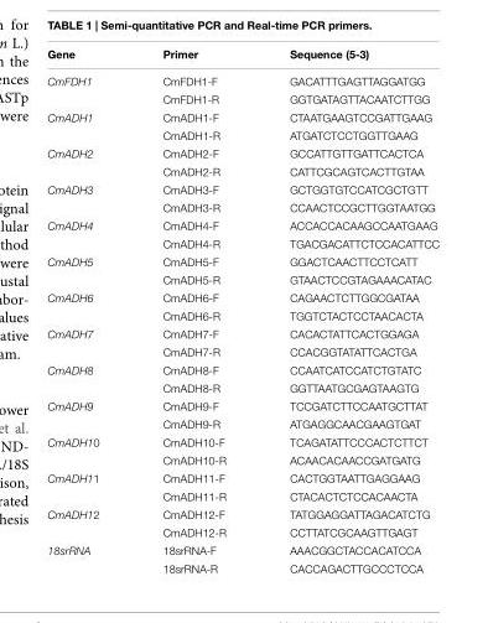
<table><thead><tr><td>Gene</td><td>Primer</td><td>Sequence (5-3)</td></tr></thead><tbody><tr><td rowspan="2">CmFDH1</td><td>CmFDH1-F</td><td>GACATTTGAGTTAGGATGG</td></tr><tr><td>CmFDH1-R</td><td>GGTGATAGTTACAATCTTGG</td></tr><tr><td rowspan="2">CmADH1</td><td>CmADH1-F</td><td>CTAATGAAGTCCGATTGAAG</td></tr><tr><td>CmADH1-R</td><td>ATGATCTCCTGGTTGAAG</td></tr><tr><td rowspan="2">CmADH2</td><td>CmADH2-F</td><td>GCCATTGTTGATTCACTCA</td></tr><tr><td>CmADH2-R</td><td>CATTCGCAGTCACTTGTAA</td></tr><tr><td rowspan="2">CmADH3</td><td>CmADH3-F</td><td>GCTGGTGTCCATCGCTGTT</td></tr><tr><td>CmADH3-R</td><td>CCAACTCCGCTTGGTAATGG</td></tr><tr><td rowspan="2">CmADH4</td><td>CmADH4-F</td><td>ACCACCACAAGCCAATGAAG</td></tr><tr><td>CmADH4-R</td><td>TGACGACATTCTCCACATTCC</td></tr><tr><td rowspan="2">CmADH5</td><td>CmADH5-F</td><td>GGACTCAACTTCCTCATT</td></tr><tr><td>CmADH5-R</td><td>GTAACTCCGTAGAAACATAC</td></tr><tr><td rowspan="2">CmADH6</td><td>CmADH6-F</td><td>CAGAACTCTTGGCGATAA</td></tr><tr><td>CmADH6-R</td><td>TGGTCTACTCCTAACACTA</td></tr><tr><td rowspan="2">CmADH7</td><td>CmADH7-F</td><td>CACACTATTCACTGGAGA</td></tr><tr><td>CmADH7-R</td><td>CCACGGTATATTCACTGA</td></tr><tr><td rowspan="2">CmADH8</td><td>CmADH8-F</td><td>CCAATCATCCATCTGTATC</td></tr><tr><td>CmADH8-R</td><td>GGTTAATGCGAGTAAGTG</td></tr><tr><td rowspan="2">CmADH9</td><td>CmADH9-F</td><td>TCCGATCTTCCAATGCTTAT</td></tr><tr><td>CmADH9-R</td><td>ATGAGGCAACGAAGTGAT</td></tr><tr><td rowspan="2">CmADH10</td><td>CmADH10-F</td><td>TCAGATATTCCCACTCTTCT</td></tr><tr><td>CmADH10-R</td><td>ACAACACAACCGATGATG</td></tr><tr><td rowspan="2">CmADH11</td><td>CmADH11-F</td><td>CACTGGTAATTGAGGAAG</td></tr><tr><td>CmADH11-R</td><td>CTACACTCTCCACAACTA</td></tr><tr><td rowspan="2">CmADH12</td><td>CmADH12-F</td><td>TATGGAGGATTAGACATCTG</td></tr><tr><td>CmADH12-R</td><td>CCTTATCGCAAGTTGAGT</td></tr><tr><td rowspan="2">18srRNA</td><td>18srRNA-F</td><td>AAACGGCTACCACATCCA</td></tr><tr><td>18srRNA-R</td><td>CACCAGACTTGCCCTCCA</td></tr></tbody></table>